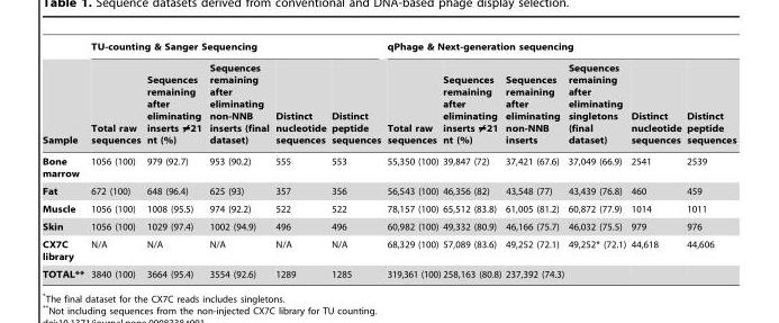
<table><thead><tr><td rowspan="2">Sample</td><td colspan="5">TU-counting &amp; Sanger Sequencing</td><td colspan="6">qPhage &amp; Next-generation sequencing</td></tr><tr><td>Total raw sequences</td><td>Sequences remaining after eliminating inserts ≠21 nt (%)</td><td>Sequences remaining after eliminating non-NNB inserts (final dataset)</td><td>Distinct nucleotide sequences</td><td>Distinct peptide sequences</td><td>Total raw sequences</td><td>Sequences remaining after eliminating inserts ≠21 nt (%)</td><td>Sequences remaining after eliminating non-NNB inserts</td><td>Sequences remaining after eliminating singletons (final dataset)</td><td>Distinct nucleotide sequences</td><td>Distinct peptide sequences</td></tr></thead><tbody><tr><td>Bone marrow</td><td>1056 (100)</td><td>979 (92.7)</td><td>953 (90.2)</td><td>555</td><td>553</td><td>55,350 (100)</td><td>39,847 (72)</td><td>37,421 (67.6)</td><td>37,049 (66.9)</td><td>2541</td><td>2539</td></tr><tr><td>Fat</td><td>672 (100)</td><td>648 (96.4)</td><td>625 (93)</td><td>357</td><td>356</td><td>56,543 (100)</td><td>46,356 (82)</td><td>43,548 (77)</td><td>43,439 (76.8)</td><td>460</td><td>459</td></tr><tr><td>Muscle</td><td>1056 (100)</td><td>1008 (95.5)</td><td>974 (92.2)</td><td>522</td><td>522</td><td>78,157 (100)</td><td>65,512 (83.8)</td><td>61,005 (81.2)</td><td>60,872 (77.9)</td><td>1014</td><td>1011</td></tr><tr><td>Skin</td><td>1056 (100)</td><td>1029 (97.4)</td><td>1002 (94.9)</td><td>496</td><td>496</td><td>60,982 (100)</td><td>49,332 (80.9)</td><td>46,166 (75.7)</td><td>46,032 (75.5)</td><td>979</td><td>976</td></tr><tr><td>CX7C library</td><td>N/A</td><td>N/A</td><td>N/A</td><td>N/A</td><td>N/A</td><td>68,329 (100)</td><td>57,089 (83.6)</td><td>49,252 (72.1)</td><td>49,252* (72.1)</td><td>44,618</td><td>44,606</td></tr><tr><td>TOTAL**</td><td>3840 (100)</td><td>3664 (95.4)</td><td>3554 (92.6)</td><td>1289</td><td>1285</td><td>319,361 (100)</td><td>258,163 (80.8)</td><td>237,392 (74.3)</td><td></td><td></td><td></td></tr></tbody></table>